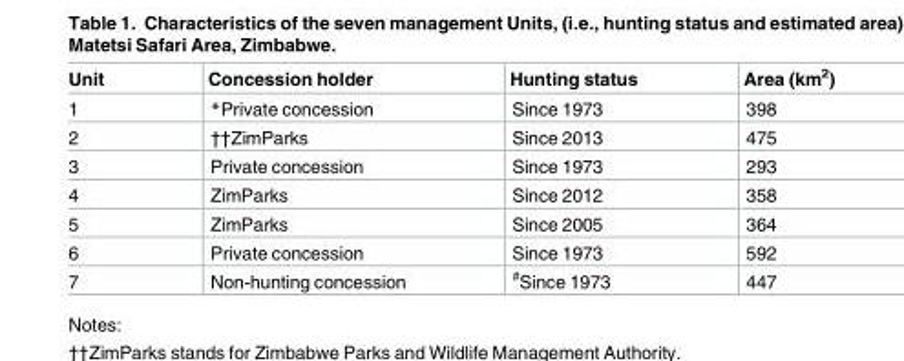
<table><thead><tr><td>Unit</td><td>Concession holder</td><td>Hunting status</td><td>Area (km<sup>2</sup>)</td></tr></thead><tbody><tr><td>1</td><td>*Private concession</td><td>Since 1973</td><td>398</td></tr><tr><td>2</td><td>††ZimParks</td><td>Since 2013</td><td>475</td></tr><tr><td>3</td><td>Private concession</td><td>Since 1973</td><td>293</td></tr><tr><td>4</td><td>ZimParks</td><td>Since 2012</td><td>358</td></tr><tr><td>5</td><td>ZimParks</td><td>Since 2005</td><td>364</td></tr><tr><td>6</td><td>Private concession</td><td>Since 1973</td><td>592</td></tr><tr><td>7</td><td>Non-hunting concession</td><td><sup>#</sup>Since 1973</td><td>447</td></tr></tbody></table>